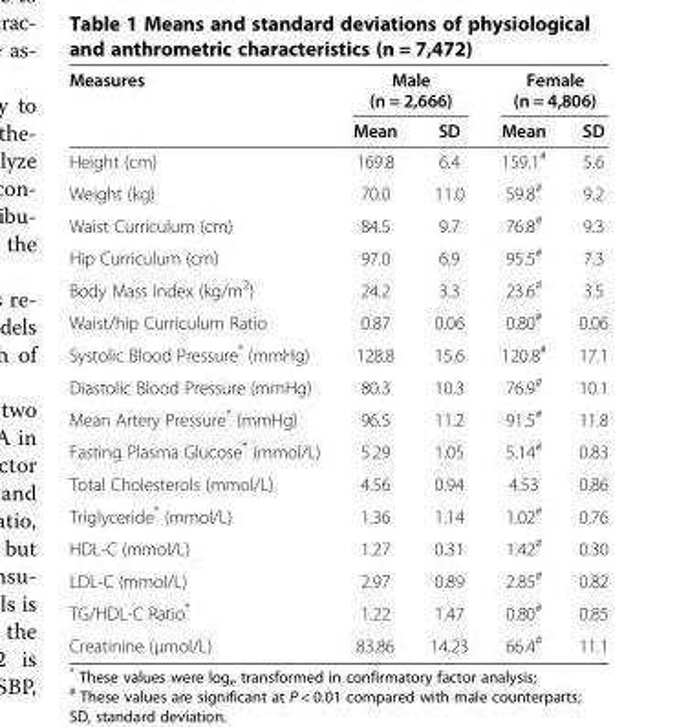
<table><thead><tr><td rowspan="2">Measures</td><td colspan="2">Male (n = 2,666)</td><td colspan="2">Female (n = 4,806)</td></tr><tr><td>Mean</td><td>SD</td><td>Mean</td><td>SD</td></tr></thead><tbody><tr><td>Height (cm)</td><td>169.8</td><td>6.4</td><td>159.1<sup>#</sup></td><td>5.6</td></tr><tr><td>Weight (kg)</td><td>70.0</td><td>11.0</td><td>59.8<sup>#</sup></td><td>9.2</td></tr><tr><td>Waist Curriculum (cm)</td><td>84.5</td><td>9.7</td><td>76.8<sup>#</sup></td><td>9.3</td></tr><tr><td>Hip Curriculum (cm)</td><td>97.0</td><td>6.9</td><td>95.5<sup>#</sup></td><td>7.3</td></tr><tr><td>Body Mass Index (kg/m<sup>2</sup>)</td><td>24.2</td><td>3.3</td><td>23.6<sup>#</sup></td><td>3.5</td></tr><tr><td>Waist/hip Curriculum Ratio</td><td>0.87</td><td>0.06</td><td>0.80<sup>#</sup></td><td>0.06</td></tr><tr><td>Systolic Blood Pressure* (mmHg)</td><td>128.8</td><td>15.6</td><td>120.8<sup>#</sup></td><td>17.1</td></tr><tr><td>Diastolic Blood Pressure (mmHg)</td><td>80.3</td><td>10.3</td><td>76.9<sup>#</sup></td><td>10.1</td></tr><tr><td>Mean Artery Pressure* (mmHg)</td><td>96.5</td><td>11.2</td><td>91.5<sup>#</sup></td><td>11.8</td></tr><tr><td>Fasting Plasma Glucose* (mmol/L)</td><td>5.29</td><td>1.05</td><td>5.14<sup>#</sup></td><td>0.83</td></tr><tr><td>Total Cholesterols (mmol/L)</td><td>4.56</td><td>0.94</td><td>4.53</td><td>0.86</td></tr><tr><td>Triglyceride* (mmol/L)</td><td>1.36</td><td>1.14</td><td>1.02<sup>#</sup></td><td>0.76</td></tr><tr><td>HDL-C (mmol/L)</td><td>1.27</td><td>0.31</td><td>1.42<sup>#</sup></td><td>0.30</td></tr><tr><td>LDL-C (mmol/L)</td><td>2.97</td><td>0.89</td><td>2.85<sup>#</sup></td><td>0.82</td></tr><tr><td>TG/HDL-C Ratio*</td><td>1.22</td><td>1.47</td><td>0.80<sup>#</sup></td><td>0.85</td></tr><tr><td>Creatinine (µmol/L)</td><td>83.86</td><td>14.23</td><td>66.4<sup>#</sup></td><td>11.1</td></tr></tbody></table>